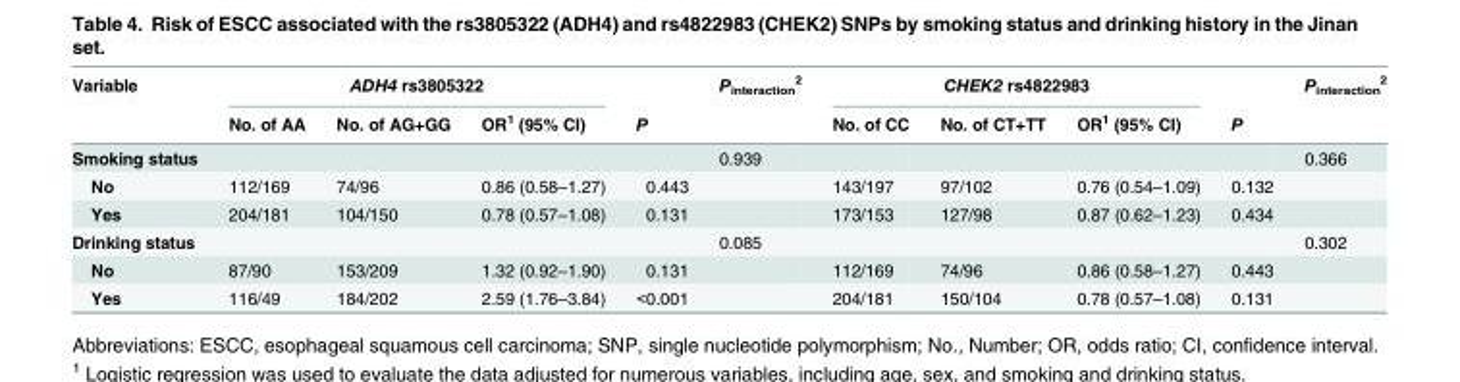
<table><thead><tr><td rowspan="2">Variable</td><td colspan="3">ADH4 rs3805322</td><td rowspan="2">P</td><td rowspan="2">P<sub>interaction</sub> <sup>2</sup></td><td colspan="3">CHEK2 rs4822983</td><td rowspan="2">P</td><td rowspan="2">P<sub>interaction</sub> <sup>2</sup></td></tr><tr><td>No. of AA</td><td>No. of AG+GG</td><td>OR<sup>1</sup> (95% CI)</td><td>No. of CC</td><td>No. of CT+TT</td><td>OR<sup>1</sup> (95% CI)</td></tr></thead><tbody><tr><td>Smoking status</td><td></td><td></td><td></td><td></td><td>0.939</td><td></td><td></td><td></td><td></td><td>0.366</td></tr><tr><td>No</td><td>112/169</td><td>74/96</td><td>0.86 (0.58–1.27)</td><td>0.443</td><td></td><td>143/197</td><td>97/102</td><td>0.76 (0.54–1.09)</td><td>0.132</td><td></td></tr><tr><td>Yes</td><td>204/181</td><td>104/150</td><td>0.78 (0.57–1.08)</td><td>0.131</td><td></td><td>173/153</td><td>127/98</td><td>0.87 (0.62–1.23)</td><td>0.434</td><td></td></tr><tr><td>Drinking status</td><td></td><td></td><td></td><td></td><td>0.085</td><td></td><td></td><td></td><td></td><td>0.302</td></tr><tr><td>No</td><td>87/90</td><td>153/209</td><td>1.32 (0.92–1.90)</td><td>0.131</td><td></td><td>112/169</td><td>74/96</td><td>0.86 (0.58–1.27)</td><td>0.443</td><td></td></tr><tr><td>Yes</td><td>116/49</td><td>184/202</td><td>2.59 (1.76–3.84)</td><td>&lt;0.001</td><td></td><td>204/181</td><td>150/104</td><td>0.78 (0.57–1.08)</td><td>0.131</td><td></td></tr></tbody></table>